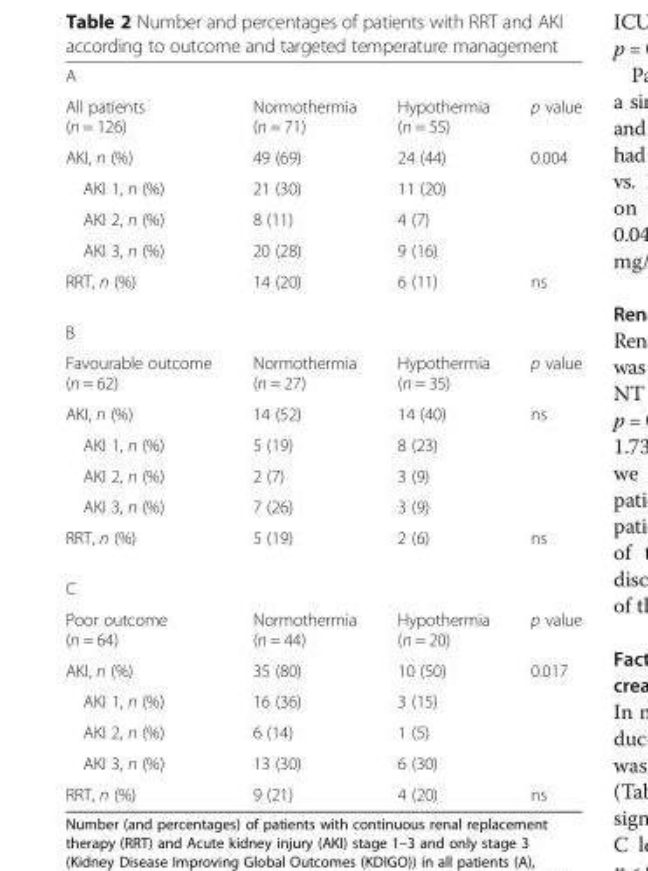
<table><tbody><tr><td colspan="4">A</td></tr><tr><td>All patients (n = 126)</td><td>Normothermia (n = 71)</td><td>Hypothermia (n = 55)</td><td>p value</td></tr><tr><td>AKI, n (%)</td><td>49 (69)</td><td>24 (44)</td><td>0.004</td></tr><tr><td>AKI 1, n (%)</td><td>21 (30)</td><td>11 (20)</td><td rowspan="3"></td></tr><tr><td>AKI 2, n (%)</td><td>8 (11)</td><td>4 (7)</td></tr><tr><td>AKI 3, n (%)</td><td>20 (28)</td><td>9 (16)</td></tr><tr><td>RRT, n (%)</td><td>14 (20)</td><td>6 (11)</td><td>ns</td></tr><tr><td colspan="4">B</td></tr><tr><td>Favourable outcome (n = 62)</td><td>Normothermia (n = 27)</td><td>Hypothermia (n = 35)</td><td>p value</td></tr><tr><td>AKI, n (%)</td><td>14 (52)</td><td>14 (40)</td><td>ns</td></tr><tr><td>AKI 1, n (%)</td><td>5 (19)</td><td>8 (23)</td><td rowspan="3"></td></tr><tr><td>AKI 2, n (%)</td><td>2 (7)</td><td>3 (9)</td></tr><tr><td>AKI 3, n (%)</td><td>7 (26)</td><td>3 (9)</td></tr><tr><td>RRT, n (%)</td><td>5 (19)</td><td>2 (6)</td><td>ns</td></tr><tr><td colspan="4">C</td></tr><tr><td>Poor outcome (n = 64)</td><td>Normothermia (n = 44)</td><td>Hypothermia (n = 20)</td><td>p value</td></tr><tr><td>AKI, n (%)</td><td>35 (80)</td><td>10 (50)</td><td>0.017</td></tr><tr><td>AKI 1, n (%)</td><td>16 (36)</td><td>3 (15)</td><td rowspan="3"></td></tr><tr><td>AKI 2, n (%)</td><td>6 (14)</td><td>1 (5)</td></tr><tr><td>AKI 3, n (%)</td><td>13 (30)</td><td>6 (30)</td></tr><tr><td>RRT, n (%)</td><td>9 (21)</td><td>4 (20)</td><td>ns</td></tr></tbody></table>